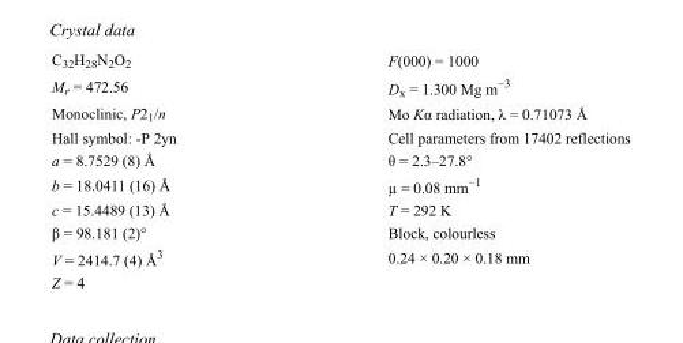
<table><tbody><tr><td>C<sub>32</sub>H<sub>28</sub>N<sub>2</sub>O<sub>2</sub></td><td>F(000) = 1000</td></tr><tr><td>M<sub>r</sub> = 472.56</td><td>D<sub>x</sub> = 1.300 Mg m<sup>−3</sup></td></tr><tr><td>Monoclinic, P2<sub>1</sub>/n</td><td>Mo Kα radiation, λ = 0.71073 Å</td></tr><tr><td>Hall symbol: -P 2yn</td><td>Cell parameters from 17402 reflections</td></tr><tr><td>a = 8.7529 (8) Å</td><td>θ = 2.3–27.8°</td></tr><tr><td>b = 18.0411 (16) Å</td><td>µ = 0.08 mm<sup>−1</sup></td></tr><tr><td>c = 15.4489 (13) Å</td><td>T = 292 K</td></tr><tr><td>β = 98.181 (2)°</td><td>Block, colourless</td></tr><tr><td>V = 2414.7 (4) Å<sup>3</sup></td><td>0.24 × 0.20 × 0.18 mm</td></tr><tr><td>Z = 4</td><td></td></tr></tbody></table>